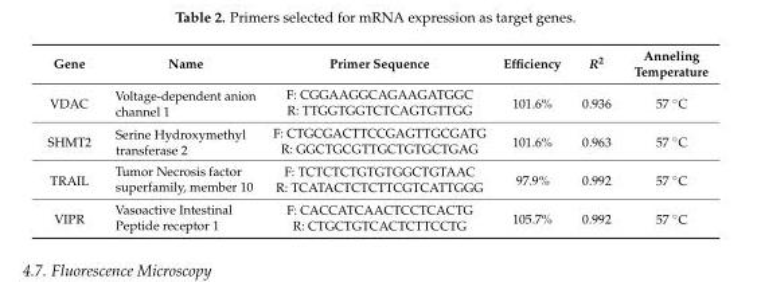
<table><thead><tr><td>Gene</td><td>Name</td><td>Primer Sequence</td><td>Efficiency</td><td>R<sup>2</sup></td><td>Anneling Temperature</td></tr></thead><tbody><tr><td rowspan="2">VDAC</td><td rowspan="2">Voltage-dependent anion channel 1</td><td>F: CGGAAGGCAGAAGATGGC</td><td rowspan="2">101.6%</td><td rowspan="2">0.936</td><td rowspan="2">57 ◦C</td></tr><tr><td>R: TTGGTGGTCTCAGTGTTGG</td></tr><tr><td rowspan="2">SHMT2</td><td rowspan="2">Serine Hydroxymethyl transferase 2</td><td>F: CTGCGACTTCCGAGTTGCGATG</td><td rowspan="2">101.6%</td><td rowspan="2">0.963</td><td rowspan="2">57 ◦C</td></tr><tr><td>R: GGCTGCGTTGCTGTGCTGAG</td></tr><tr><td rowspan="2">TRAIL</td><td rowspan="2">Tumor Necrosis factor superfamily, member 10</td><td>F: TCTCTCTGTGTGGCTGTAAC</td><td rowspan="2">97.9%</td><td rowspan="2">0.992</td><td rowspan="2">57 ◦C</td></tr><tr><td>R: TCATACTCTCTTCGTCATTGGG</td></tr><tr><td rowspan="2">VIPR</td><td rowspan="2">Vasoactive Intestinal Peptide receptor 1</td><td>F: CACCATCAACTCCTCACTG</td><td rowspan="2">105.7%</td><td rowspan="2">0.992</td><td rowspan="2">57 ◦C</td></tr><tr><td>R: CTGCTGTCACTCTTCCTG</td></tr></tbody></table>